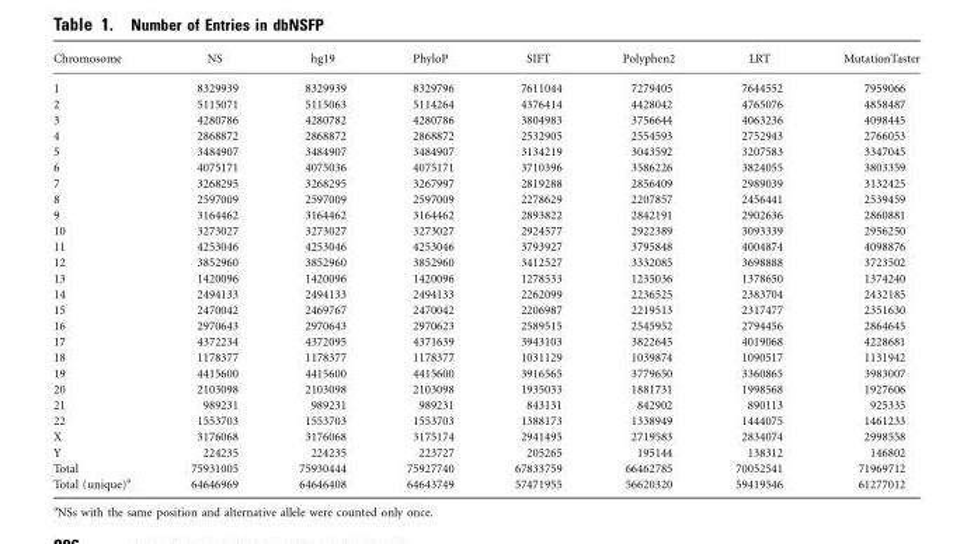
<table><thead><tr><td>Chromosome</td><td>NS</td><td>hg19</td><td>PhyloP</td><td>SIFT</td><td>Polyphen2</td><td>LRT</td><td>MutationTaster</td></tr></thead><tbody><tr><td>1</td><td>8329939</td><td>8329939</td><td>8329796</td><td>7611044</td><td>7279405</td><td>7644552</td><td>7959066</td></tr><tr><td>2</td><td>5115071</td><td>5115063</td><td>5114264</td><td>4376414</td><td>4428042</td><td>4765076</td><td>4858487</td></tr><tr><td>3</td><td>4280786</td><td>4280782</td><td>4280786</td><td>3804983</td><td>3756644</td><td>4063236</td><td>4098445</td></tr><tr><td>4</td><td>2868872</td><td>2868872</td><td>2868872</td><td>2532905</td><td>2554593</td><td>2752943</td><td>2766053</td></tr><tr><td>5</td><td>3484907</td><td>3484907</td><td>3484907</td><td>3134219</td><td>3043592</td><td>3207583</td><td>3347045</td></tr><tr><td>6</td><td>4075171</td><td>4075036</td><td>4075171</td><td>3710396</td><td>3586226</td><td>3824055</td><td>3803359</td></tr><tr><td>7</td><td>3268295</td><td>3268295</td><td>3267997</td><td>2819288</td><td>2856409</td><td>2989039</td><td>3132425</td></tr><tr><td>8</td><td>2597009</td><td>2597009</td><td>2597009</td><td>2278629</td><td>2207857</td><td>2456441</td><td>2539459</td></tr><tr><td>9</td><td>3164462</td><td>3164462</td><td>3164462</td><td>2893822</td><td>2842191</td><td>2902636</td><td>2860881</td></tr><tr><td>10</td><td>3273027</td><td>3273027</td><td>3273027</td><td>2924577</td><td>2922389</td><td>3093339</td><td>2956250</td></tr><tr><td>11</td><td>4253046</td><td>4253046</td><td>4253046</td><td>3793927</td><td>3795848</td><td>4004874</td><td>4098876</td></tr><tr><td>12</td><td>3852960</td><td>3852960</td><td>3852960</td><td>3412527</td><td>3332085</td><td>3698888</td><td>3723502</td></tr><tr><td>13</td><td>1420096</td><td>1420096</td><td>1420096</td><td>1278533</td><td>1235036</td><td>1378650</td><td>1374240</td></tr><tr><td>14</td><td>2494133</td><td>2494133</td><td>2494133</td><td>2262099</td><td>2236525</td><td>2383704</td><td>2432185</td></tr><tr><td>15</td><td>2470042</td><td>2469767</td><td>2470042</td><td>2206987</td><td>2219513</td><td>2317477</td><td>2351630</td></tr><tr><td>16</td><td>2970643</td><td>2970643</td><td>2970623</td><td>2589515</td><td>2545952</td><td>2794456</td><td>2864645</td></tr><tr><td>17</td><td>4372234</td><td>4372095</td><td>4371639</td><td>3943103</td><td>3822645</td><td>4019068</td><td>4228681</td></tr><tr><td>18</td><td>1178377</td><td>1178377</td><td>1178377</td><td>1031129</td><td>1039874</td><td>1090517</td><td>1131942</td></tr><tr><td>19</td><td>4415600</td><td>4415600</td><td>4415600</td><td>3916565</td><td>3779650</td><td>3360865</td><td>3983007</td></tr><tr><td>20</td><td>2103098</td><td>2103098</td><td>2103098</td><td>1935033</td><td>1881731</td><td>1998568</td><td>1927606</td></tr><tr><td>21</td><td>989231</td><td>989231</td><td>989231</td><td>843131</td><td>842902</td><td>890113</td><td>925335</td></tr><tr><td>22</td><td>1553703</td><td>1553703</td><td>1553703</td><td>1388173</td><td>1338949</td><td>1444075</td><td>1461233</td></tr><tr><td>X</td><td>3176068</td><td>3176068</td><td>3175174</td><td>2941495</td><td>2719583</td><td>2834074</td><td>2998558</td></tr><tr><td>Y</td><td>224235</td><td>224235</td><td>223727</td><td>205265</td><td>195144</td><td>138312</td><td>146802</td></tr><tr><td>Total</td><td>75931005</td><td>75930444</td><td>75927740</td><td>67833759</td><td>66462785</td><td>70052541</td><td>71969712</td></tr><tr><td>Total (unique)<sup>a</sup></td><td>64646969</td><td>64646408</td><td>64643749</td><td>57471955</td><td>56620320</td><td>59419546</td><td>61277012</td></tr></tbody></table>